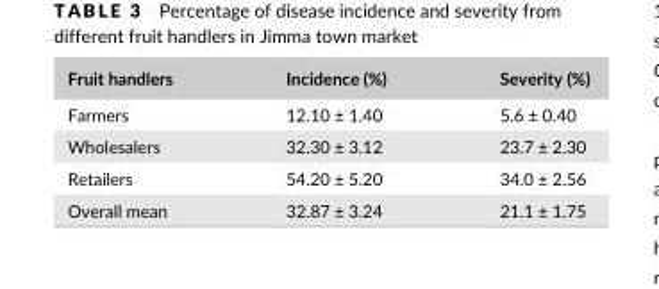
<table><thead><tr><td>Fruit handlers</td><td>Incidence (%)</td><td>Severity (%)</td></tr></thead><tbody><tr><td>Farmers</td><td>12.10 ± 1.40</td><td>5.6 ± 0.40</td></tr><tr><td>Wholesalers</td><td>32.30 ± 3.12</td><td>23.7 ± 2.30</td></tr><tr><td>Retailers</td><td>54.20 ± 5.20</td><td>34.0 ± 2.56</td></tr><tr><td>Overall mean</td><td>32.87 ± 3.24</td><td>21.1 ± 1.75</td></tr></tbody></table>